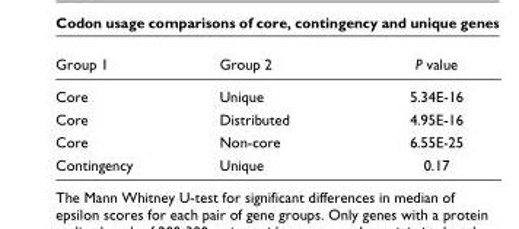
<table><thead><tr><td>Group 1</td><td>Group 2</td><td>P value</td></tr></thead><tbody><tr><td>Core</td><td>Unique</td><td>5.34E-16</td></tr><tr><td>Core</td><td>Distributed</td><td>4.95E-16</td></tr><tr><td>Core</td><td>Non-core</td><td>6.55E-25</td></tr><tr><td>Contingency</td><td>Unique</td><td>0.17</td></tr></tbody></table>